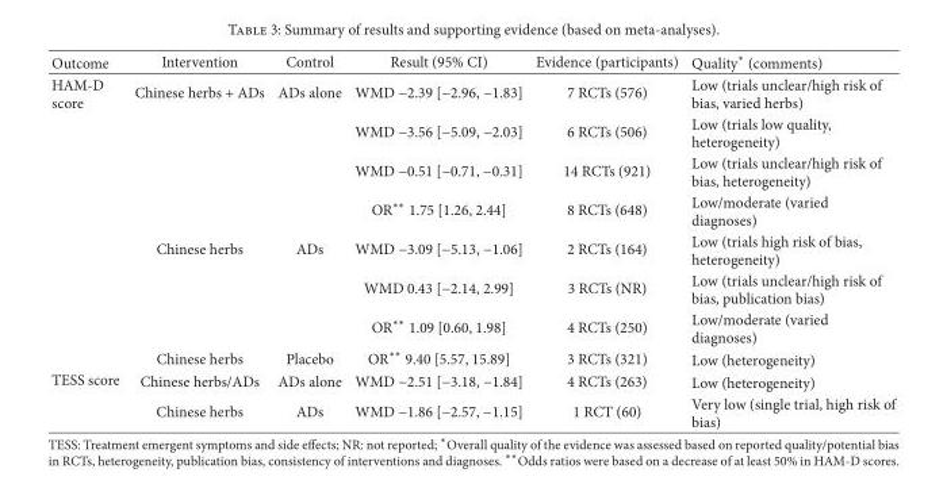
<table><thead><tr><td>Outcome</td><td>Intervention</td><td>Control</td><td>Result (95% CI)</td><td>Evidence (participants)</td><td>Quality∗ (comments)</td></tr></thead><tbody><tr><td rowspan="7">HAM-D score</td><td>Chinese herbs + ADs</td><td>ADs alone</td><td>WMD −2.39 [−2.96, −1.83]</td><td>7 RCTs (576)</td><td>Low (trials unclear/high risk of bias, varied herbs)</td></tr><tr><td></td><td></td><td>WMD −3.56 [−5.09, −2.03]</td><td>6 RCTs (506)</td><td>Low (trials low quality, heterogeneity)</td></tr><tr><td></td><td></td><td>WMD −0.51 [−0.71, −0.31]</td><td>14 RCTs (921)</td><td>Low (trials unclear/high risk of bias, heterogeneity)</td></tr><tr><td></td><td></td><td>OR∗∗ 1.75 [1.26, 2.44]</td><td>8 RCTs (648)</td><td>Low/moderate (varied diagnoses)</td></tr><tr><td>Chinese herbs</td><td>ADs</td><td>WMD −3.09 [−5.13, −1.06]</td><td>2 RCTs (164)</td><td>Low (trials high risk of bias, heterogeneity)</td></tr><tr><td></td><td></td><td>WMD 0.43 [−2.14, 2.99]</td><td>3 RCTs (NR)</td><td>Low (trials unclear/high risk of bias, publication bias)</td></tr><tr><td></td><td></td><td>OR∗∗ 1.09 [0.60, 1.98]</td><td>4 RCTs (250)</td><td>Low/moderate (varied diagnoses)</td></tr><tr><td rowspan="3">TESS score</td><td>Chinese herbs</td><td>Placebo</td><td>OR∗∗ 9.40 [5.57, 15.89]</td><td>3 RCTs (321)</td><td>Low (heterogeneity)</td></tr><tr><td>Chinese herbs/ADs</td><td>ADs alone</td><td>WMD −2.51 [−3.18, −1.84]</td><td>4 RCTs (263)</td><td>Low (heterogeneity)</td></tr><tr><td>Chinese herbs</td><td>ADs</td><td>WMD −1.86 [−2.57, −1.15]</td><td>1 RCT (60)</td><td>Very low (single trial, high risk of bias)</td></tr></tbody></table>